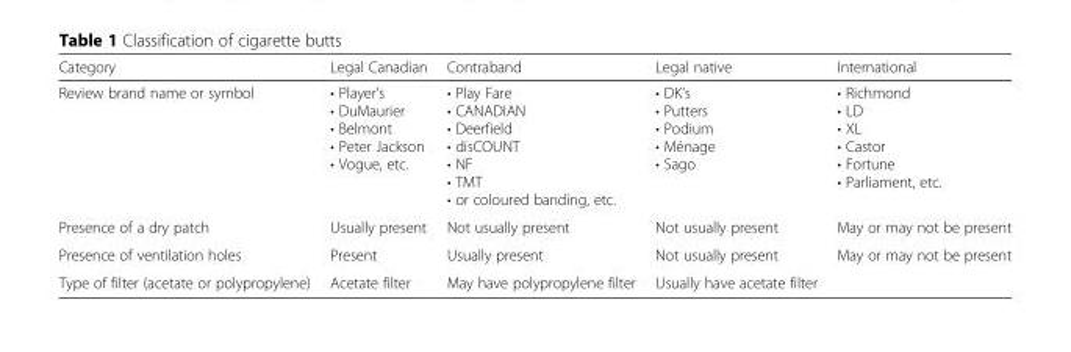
<table><thead><tr><td>Category</td><td>Legal Canadian</td><td>Contraband</td><td>Legal native</td><td>International</td></tr></thead><tbody><tr><td>Review brand name or symbol</td><td>• Player’s • DuMaurier • Belmont • Peter Jackson • Vogue, etc.</td><td>• Play Fare • CANADIAN • Deerfield • disCOUNT • NF • TMT • or coloured banding, etc.</td><td>• DK’s • Putters • Podium • Ménage • Sago</td><td>• Richmond • LD • XL • Castor • Fortune • Parliament, etc.</td></tr><tr><td>Presence of a dry patch</td><td>Usually present</td><td>Not usually present</td><td>Not usually present</td><td>May or may not be present</td></tr><tr><td>Presence of ventilation holes</td><td>Present</td><td>Usually present</td><td>Not usually present</td><td>May or may not be present</td></tr><tr><td>Type of filter (acetate or polypropylene)</td><td>Acetate filter</td><td>May have polypropylene filter</td><td>Usually have acetate filter</td><td></td></tr></tbody></table>